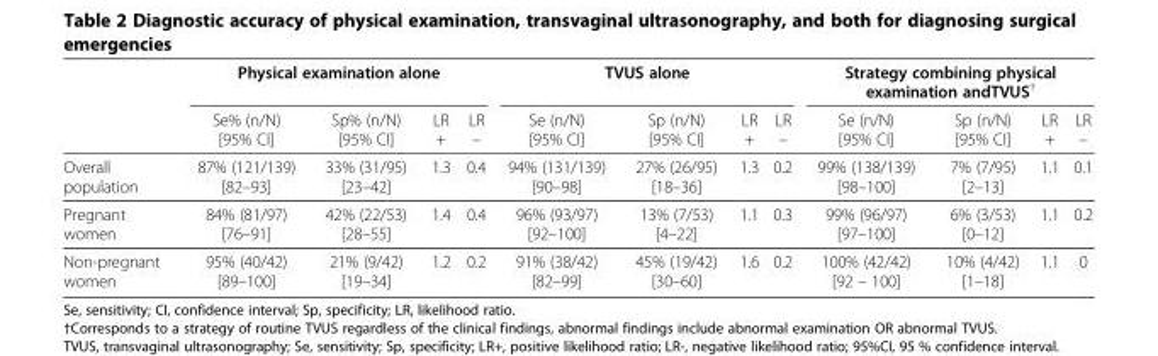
<table><thead><tr><td rowspan="2"></td><td colspan="4">Physical examination alone</td><td colspan="4">TVUS alone</td><td colspan="4">Strategy combining physical examination andTVUS<sup>†</sup></td></tr><tr><td>Se% (n/N) [95% CI]</td><td>Sp% (n/N) [95% CI]</td><td>LR +</td><td>LR –</td><td>Se (n/N) [95% CI]</td><td>Sp (n/N) [95% CI]</td><td>LR +</td><td>LR –</td><td>Se (n/N) [95% CI]</td><td>Sp (n/N) [95% CI]</td><td>LR +</td><td>LR –</td></tr></thead><tbody><tr><td>Overall population</td><td>87% (121/139) [82–93]</td><td>33% (31/95) [23–42]</td><td>1.3</td><td>0.4</td><td>94% (131/139) [90–98]</td><td>27% (26/95) [18–36]</td><td>1.3</td><td>0.2</td><td>99% (138/139) [98–100]</td><td>7% (7/95) [2–13]</td><td>1.1</td><td>0.1</td></tr><tr><td>Pregnant women</td><td>84% (81/97) [76–91]</td><td>42% (22/53) [28–55]</td><td>1.4</td><td>0.4</td><td>96% (93/97) [92–100]</td><td>13% (7/53) [4–22]</td><td>1.1</td><td>0.3</td><td>99% (96/97) [97–100]</td><td>6% (3/53) [0–12]</td><td>1.1</td><td>0.2</td></tr><tr><td>Non-pregnant women</td><td>95% (40/42) [89–100]</td><td>21% (9/42) [19–34]</td><td>1.2</td><td>0.2</td><td>91% (38/42) [82–99]</td><td>45% (19/42) [30–60]</td><td>1.6</td><td>0.2</td><td>100% (42/42) [92 – 100]</td><td>10% (4/42) [1–18]</td><td>1.1</td><td>0</td></tr></tbody></table>